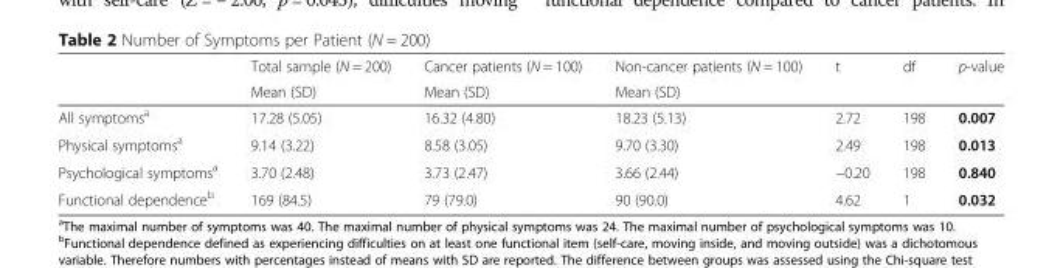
<table><thead><tr><td rowspan="2"></td><td rowspan="2">Total sample (N = 200) Mean (SD)</td><td rowspan="2">Cancer patients (N = 100) Mean (SD)</td><td rowspan="2">Non-cancer patients (N = 100) Mean (SD)</td><td rowspan="2">t</td><td rowspan="2">df</td><td rowspan="2">p-value</td></tr><tr></tr></thead><tbody><tr><td>All symptoms<sup>a</sup></td><td>17.28 (5.05)</td><td>16.32 (4.80)</td><td>18.23 (5.13)</td><td>2.72</td><td>198</td><td>0.007</td></tr><tr><td>Physical symptoms<sup>a</sup></td><td>9.14 (3.22)</td><td>8.58 (3.05)</td><td>9.70 (3.30)</td><td>2.49</td><td>198</td><td>0.013</td></tr><tr><td>Psychological symptoms<sup>a</sup></td><td>3.70 (2.48)</td><td>3.73 (2.47)</td><td>3.66 (2.44)</td><td>−0.20</td><td>198</td><td>0.840</td></tr><tr><td>Functional dependence<sup>b</sup></td><td>169 (84.5)</td><td>79 (79.0)</td><td>90 (90.0)</td><td>4.62</td><td>1</td><td>0.032</td></tr></tbody></table>